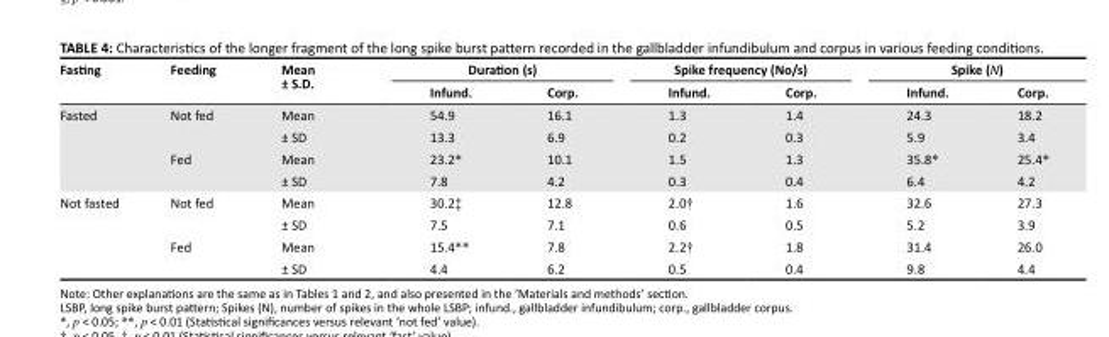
<table><thead><tr><td rowspan="2">Fasting</td><td rowspan="2">Feeding</td><td rowspan="2">Mean ± S.D.</td><td colspan="2">Duration (s)</td><td colspan="2">Spike frequency (No/s)</td><td colspan="2">Spike (N)</td></tr><tr><td>Infund.</td><td>Corp.</td><td>Infund.</td><td>Corp.</td><td>Infund.</td><td>Corp.</td></tr></thead><tbody><tr><td rowspan="4">Fasted</td><td rowspan="2">Not fed</td><td>Mean</td><td>54.9</td><td>16.1</td><td>1.3</td><td>1.4</td><td>24.3</td><td>18.2</td></tr><tr><td>± SD</td><td>13.3</td><td>6.9</td><td>0.2</td><td>0.3</td><td>5.9</td><td>3.4</td></tr><tr><td rowspan="2">Fed</td><td>Mean</td><td>23.2*</td><td>10.1</td><td>1.5</td><td>1.3</td><td>35.8*</td><td>25.4*</td></tr><tr><td>± SD</td><td>7.8</td><td>4.2</td><td>0.3</td><td>0.4</td><td>6.4</td><td>4.2</td></tr><tr><td rowspan="4">Not fasted</td><td rowspan="2">Not fed</td><td>Mean</td><td>30.2‡</td><td>12.8</td><td>2.0†</td><td>1.6</td><td>32.6</td><td>27.3</td></tr><tr><td>± SD</td><td>7.5</td><td>7.1</td><td>0.6</td><td>0.5</td><td>5.2</td><td>3.9</td></tr><tr><td rowspan="2">Fed</td><td>Mean</td><td>15.4**</td><td>7.8</td><td>2.2†</td><td>1.8</td><td>31.4</td><td>26.0</td></tr><tr><td>± SD</td><td>4.4</td><td>6.2</td><td>0.5</td><td>0.4</td><td>9.8</td><td>4.4</td></tr></tbody></table>